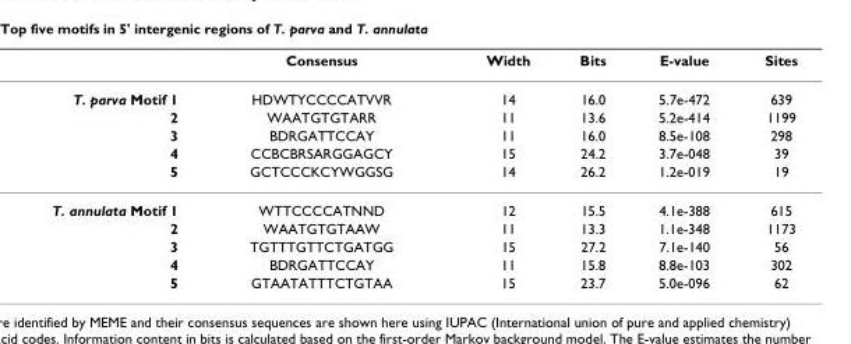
<table><thead><tr><td></td><td>Consensus</td><td>Width</td><td>Bits</td><td>E-value</td><td>Sites</td></tr></thead><tbody><tr><td>T. parva Motif 1</td><td>HDWTYCCCCATVVR</td><td>14</td><td>16.0</td><td>5.7e-472</td><td>639</td></tr><tr><td>2</td><td>WAATGTGTARR</td><td>11</td><td>13.6</td><td>5.2e-414</td><td>1199</td></tr><tr><td>3</td><td>BDRGATTCCAY</td><td>11</td><td>16.0</td><td>8.5e-108</td><td>298</td></tr><tr><td>4</td><td>CCBCBRSARGGAGCY</td><td>15</td><td>24.2</td><td>3.7e-048</td><td>39</td></tr><tr><td>5</td><td>GCTCCCKCYWGGSG</td><td>14</td><td>26.2</td><td>1.2e-019</td><td>19</td></tr><tr><td>T. annulata Motif 1</td><td>WTTCCCCATNND</td><td>12</td><td>15.5</td><td>4.1e-388</td><td>615</td></tr><tr><td>2</td><td>WAATGTGTAAW</td><td>11</td><td>13.3</td><td>1.1e-348</td><td>1173</td></tr><tr><td>3</td><td>TGTTTGTTCTGATGG</td><td>15</td><td>27.2</td><td>7.1e-140</td><td>56</td></tr><tr><td>4</td><td>BDRGATTCCAY</td><td>11</td><td>15.8</td><td>8.8e-103</td><td>302</td></tr><tr><td>5</td><td>GTAATATTTCTGTAA</td><td>15</td><td>23.7</td><td>5.0e-096</td><td>62</td></tr></tbody></table>